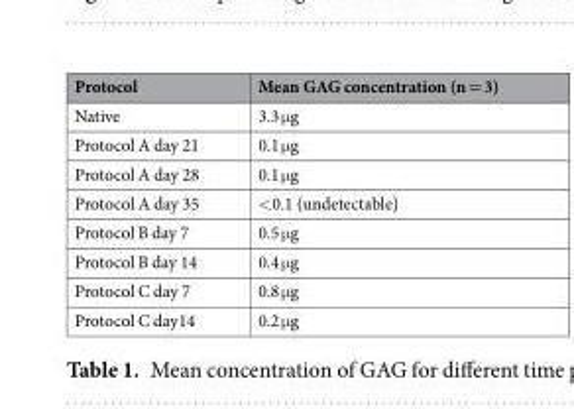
<table><thead><tr><td>Protocol</td><td>Mean GAG concentration (n = 3)</td></tr></thead><tbody><tr><td>Native</td><td>3.3 μg</td></tr><tr><td>Protocol A day 21</td><td>0.1 μg</td></tr><tr><td>Protocol A day 28</td><td>0.1 μg</td></tr><tr><td>Protocol A day 35</td><td>&lt;0.1 (undetectable)</td></tr><tr><td>Protocol B day 7</td><td>0.5 μg</td></tr><tr><td>Protocol B day 14</td><td>0.4 μg</td></tr><tr><td>Protocol C day 7</td><td>0.8 μg</td></tr><tr><td>Protocol C day14</td><td>0.2 μg</td></tr></tbody></table>